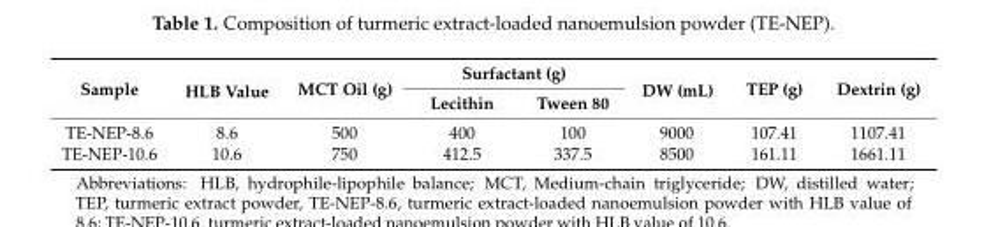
<table><thead><tr><td rowspan="2">Sample</td><td rowspan="2">HLB Value</td><td rowspan="2">MCT Oil (g)</td><td colspan="2">Surfactant (g)</td><td rowspan="2">DW (mL)</td><td rowspan="2">TEP (g)</td><td rowspan="2">Dextrin (g)</td></tr><tr><td>Lecithin</td><td>Tween 80</td></tr></thead><tbody><tr><td>TE-NEP-8.6</td><td>8.6</td><td>500</td><td>400</td><td>100</td><td>9000</td><td>107.41</td><td>1107.41</td></tr><tr><td>TE-NEP-10.6</td><td>10.6</td><td>750</td><td>412.5</td><td>337.5</td><td>8500</td><td>161.11</td><td>1661.11</td></tr></tbody></table>